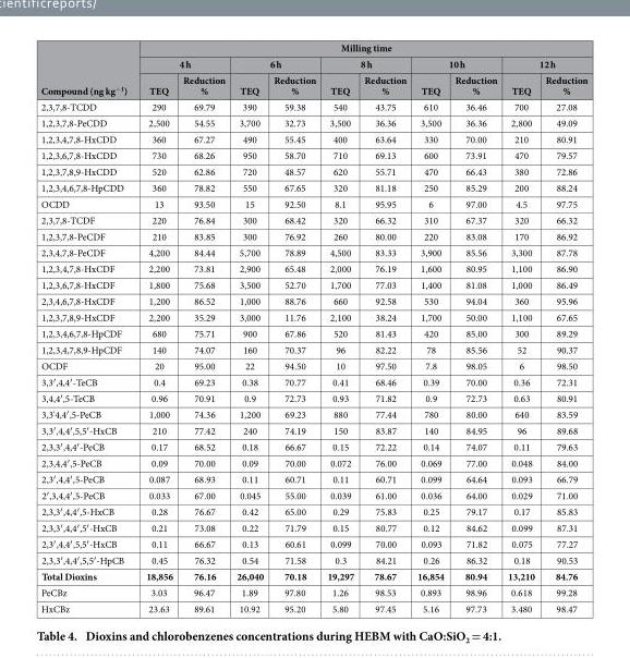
<table><thead><tr><td rowspan="3">Compound (ng kg<sup>−1</sup>)</td><td colspan="10">Milling time</td></tr><tr><td colspan="2">4 h</td><td colspan="2">6 h</td><td colspan="2">8 h</td><td colspan="2">10 h</td><td colspan="2">12 h</td></tr><tr><td>TEQ</td><td>Reduction %</td><td>TEQ</td><td>Reduction %</td><td>TEQ</td><td>Reduction %</td><td>TEQ</td><td>Reduction %</td><td>TEQ</td><td>Reduction %</td></tr></thead><tbody><tr><td>2,3,7,8-TCDD</td><td>290</td><td>69.79</td><td>390</td><td>59.38</td><td>540</td><td>43.75</td><td>610</td><td>36.46</td><td>700</td><td>27.08</td></tr><tr><td>1,2,3,7,8-PeCDD</td><td>2,500</td><td>54.55</td><td>3,700</td><td>32.73</td><td>3,500</td><td>36.36</td><td>3,500</td><td>36.36</td><td>2,800</td><td>49.09</td></tr><tr><td>1,2,3,4,7,8-HxCDD</td><td>360</td><td>67.27</td><td>490</td><td>55.45</td><td>400</td><td>63.64</td><td>330</td><td>70.00</td><td>210</td><td>80.91</td></tr><tr><td>1,2,3,6,7,8-HxCDD</td><td>730</td><td>68.26</td><td>950</td><td>58.70</td><td>710</td><td>69.13</td><td>600</td><td>73.91</td><td>470</td><td>79.57</td></tr><tr><td>1,2,3,7,8,9-HxCDD</td><td>520</td><td>62.86</td><td>720</td><td>48.57</td><td>620</td><td>55.71</td><td>470</td><td>66.43</td><td>380</td><td>72.86</td></tr><tr><td>1,2,3,4,6,7,8-HpCDD</td><td>360</td><td>78.82</td><td>550</td><td>67.65</td><td>320</td><td>81.18</td><td>250</td><td>85.29</td><td>200</td><td>88.24</td></tr><tr><td>OCDD</td><td>13</td><td>93.50</td><td>15</td><td>92.50</td><td>8.1</td><td>95.95</td><td>6</td><td>97.00</td><td>4.5</td><td>97.75</td></tr><tr><td>2,3,7,8-TCDF</td><td>220</td><td>76.84</td><td>300</td><td>68.42</td><td>320</td><td>66.32</td><td>310</td><td>67.37</td><td>320</td><td>66.32</td></tr><tr><td>1,2,3,7,8-PeCDF</td><td>210</td><td>83.85</td><td>300</td><td>76.92</td><td>260</td><td>80.00</td><td>220</td><td>83.08</td><td>170</td><td>86.92</td></tr><tr><td>2,3,4,7,8-PeCDF</td><td>4,200</td><td>84.44</td><td>5,700</td><td>78.89</td><td>4,500</td><td>83.33</td><td>3,900</td><td>85.56</td><td>3,300</td><td>87.78</td></tr><tr><td>1,2,3,4,7,8-HxCDF</td><td>2,200</td><td>73.81</td><td>2,900</td><td>65.48</td><td>2,000</td><td>76.19</td><td>1,600</td><td>80.95</td><td>1,100</td><td>86.90</td></tr><tr><td>1,2,3,6,7,8-HxCDF</td><td>1,800</td><td>75.68</td><td>3,500</td><td>52.70</td><td>1,700</td><td>77.03</td><td>1,400</td><td>81.08</td><td>1,000</td><td>86.49</td></tr><tr><td>2,3,4,6,7,8-HxCDF</td><td>1,200</td><td>86.52</td><td>1,000</td><td>88.76</td><td>660</td><td>92.58</td><td>530</td><td>94.04</td><td>360</td><td>95.96</td></tr><tr><td>1,2,3,7,8,9-HxCDF</td><td>2,200</td><td>35.29</td><td>3,000</td><td>11.76</td><td>2,100</td><td>38.24</td><td>1,700</td><td>50.00</td><td>1,100</td><td>67.65</td></tr><tr><td>1,2,3,4,6,7,8-HpCDF</td><td>680</td><td>75.71</td><td>900</td><td>67.86</td><td>520</td><td>81.43</td><td>420</td><td>85.00</td><td>300</td><td>89.29</td></tr><tr><td>1,2,3,4,7,8,9-HpCDF</td><td>140</td><td>74.07</td><td>160</td><td>70.37</td><td>96</td><td>82.22</td><td>78</td><td>85.56</td><td>52</td><td>90.37</td></tr><tr><td>OCDF</td><td>20</td><td>95.00</td><td>22</td><td>94.50</td><td>10</td><td>97.50</td><td>7.8</td><td>98.05</td><td>6</td><td>98.50</td></tr><tr><td>3,3′ ,4,4′ -TeCB</td><td>0.4</td><td>69.23</td><td>0.38</td><td>70.77</td><td>0.41</td><td>68.46</td><td>0.39</td><td>70.00</td><td>0.36</td><td>72.31</td></tr><tr><td>3,4,4′ ,5-TeCB</td><td>0.96</td><td>70.91</td><td>0.9</td><td>72.73</td><td>0.93</td><td>71.82</td><td>0.9</td><td>72.73</td><td>0.63</td><td>80.91</td></tr><tr><td>3,3&#x27;4,4′ ,5-PeCB</td><td>1,000</td><td>74.36</td><td>1,200</td><td>69.23</td><td>880</td><td>77.44</td><td>780</td><td>80.00</td><td>640</td><td>83.59</td></tr><tr><td>3,3′ ,4,4′ ,5,5′ -HxCB</td><td>210</td><td>77.42</td><td>240</td><td>74.19</td><td>150</td><td>83.87</td><td>140</td><td>84.95</td><td>96</td><td>89.68</td></tr><tr><td>2,3,3′ ,4,4′ -PeCB</td><td>0.17</td><td>68.52</td><td>0.18</td><td>66.67</td><td>0.15</td><td>72.22</td><td>0.14</td><td>74.07</td><td>0.11</td><td>79.63</td></tr><tr><td>2,3,4,4′ ,5-PeCB</td><td>0.09</td><td>70.00</td><td>0.09</td><td>70.00</td><td>0.072</td><td>76.00</td><td>0.069</td><td>77.00</td><td>0.048</td><td>84.00</td></tr><tr><td>2,3′ ,4,4′ ,5-PeCB</td><td>0.087</td><td>68.93</td><td>0.11</td><td>60.71</td><td>0.11</td><td>60.71</td><td>0.099</td><td>64.64</td><td>0.093</td><td>66.79</td></tr><tr><td>2′ ,3,4,4′ ,5-PeCB</td><td>0.033</td><td>67.00</td><td>0.045</td><td>55.00</td><td>0.039</td><td>61.00</td><td>0.036</td><td>64.00</td><td>0.029</td><td>71.00</td></tr><tr><td>2,3,3′ ,4,4′ ,5-HxCB</td><td>0.28</td><td>76.67</td><td>0.42</td><td>65.00</td><td>0.29</td><td>75.83</td><td>0.25</td><td>79.17</td><td>0.17</td><td>85.83</td></tr><tr><td>2,3,3′ ,4,4′ ,5′ -HxCB</td><td>0.21</td><td>73.08</td><td>0.22</td><td>71.79</td><td>0.15</td><td>80.77</td><td>0.12</td><td>84.62</td><td>0.099</td><td>87.31</td></tr><tr><td>2,3′ ,4,4′ ,5,5′ -HxCB</td><td>0.11</td><td>66.67</td><td>0.13</td><td>60.61</td><td>0.099</td><td>70.00</td><td>0.093</td><td>71.82</td><td>0.075</td><td>77.27</td></tr><tr><td>2,3,3′ ,4,4′ ,5,5′ -HpCB</td><td>0.45</td><td>76.32</td><td>0.54</td><td>71.58</td><td>0.3</td><td>84.21</td><td>0.26</td><td>86.32</td><td>0.18</td><td>90.53</td></tr><tr><td>Total Dioxins</td><td>18,856</td><td>76.16</td><td>26,040</td><td>70.18</td><td>19,297</td><td>78.67</td><td>16,854</td><td>80.94</td><td>13,210</td><td>84.76</td></tr><tr><td>PeCBz</td><td>3.03</td><td>96.47</td><td>1.89</td><td>97.80</td><td>1.26</td><td>98.53</td><td>0.893</td><td>98.96</td><td>0.618</td><td>99.28</td></tr><tr><td>HxCBz</td><td>23.63</td><td>89.61</td><td>10.92</td><td>95.20</td><td>5.80</td><td>97.45</td><td>5.16</td><td>97.73</td><td>3.480</td><td>98.47</td></tr></tbody></table>